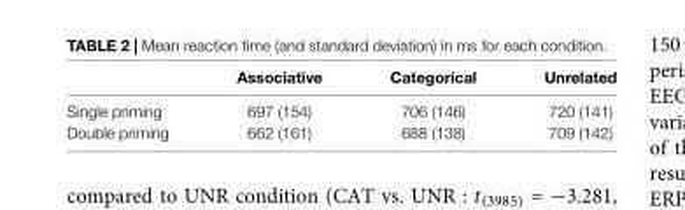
<table><thead><tr><td></td><td>Associative</td><td>Categorical</td><td>Unrelated</td></tr></thead><tbody><tr><td>Single priming</td><td>697 (154)</td><td>706 (146)</td><td>720 (141)</td></tr><tr><td>Double priming</td><td>662 (161)</td><td>688 (138)</td><td>709 (142)</td></tr></tbody></table>